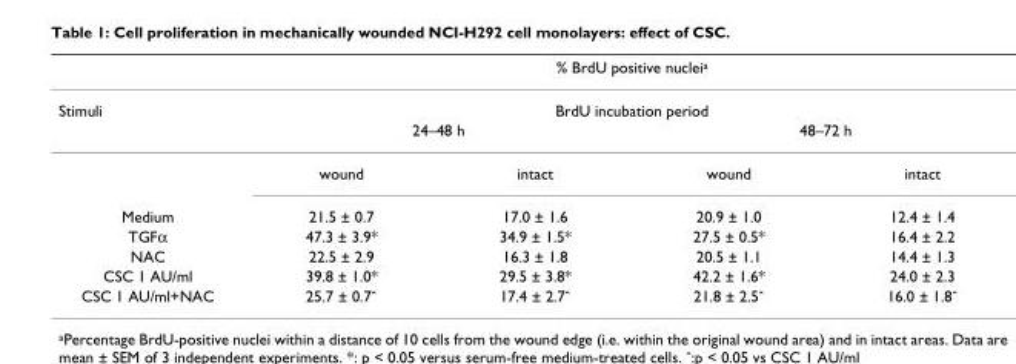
<table><thead><tr><td rowspan="4">Stimuli</td><td rowspan="2" colspan="4">% BrdU positive nucleia BrdU incubation period</td></tr><tr></tr><tr><td colspan="2">24–48 h</td><td colspan="2">48–72 h</td></tr><tr><td>wound</td><td>intact</td><td>wound</td><td>intact</td></tr></thead><tbody><tr><td>Medium</td><td>21.5 ± 0.7</td><td>17.0 ± 1.6</td><td>20.9 ± 1.0</td><td>12.4 ± 1.4</td></tr><tr><td>TGFα</td><td>47.3 ± 3.9*</td><td>34.9 ± 1.5*</td><td>27.5 ± 0.5*</td><td>16.4 ± 2.2</td></tr><tr><td>NAC</td><td>22.5 ± 2.9</td><td>16.3 ± 1.8</td><td>20.5 ± 1.1</td><td>14.4 ± 1.3</td></tr><tr><td>CSC 1 AU/ml</td><td>39.8 ± 1.0*</td><td>29.5 ± 3.8*</td><td>42.2 ± 1.6*</td><td>24.0 ± 2.3</td></tr><tr><td>CSC 1 AU/ml+NAC</td><td>25.7 ± 0.7ˆ</td><td>17.4 ± 2.7ˆ</td><td>21.8 ± 2.5ˆ</td><td>16.0 ± 1.8ˆ</td></tr></tbody></table>